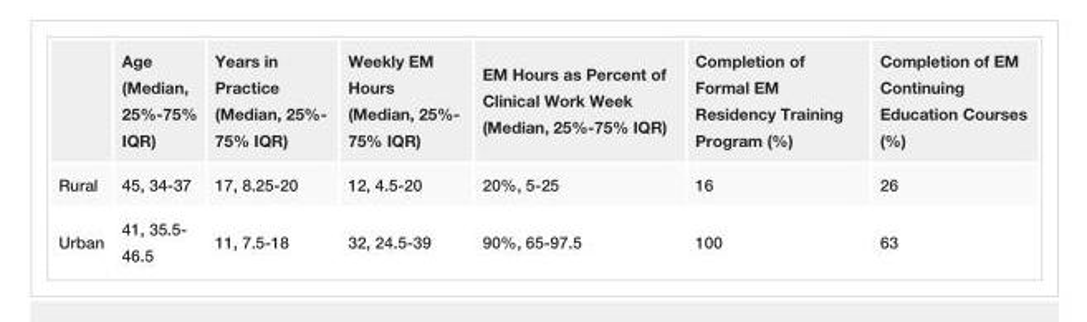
<table><thead><tr><td></td><td>Age (Median, 25%-75% IQR)</td><td>Years in Practice (Median, 25%- 75% IQR)</td><td>Weekly EM Hours (Median, 25%- 75% IQR)</td><td>EM Hours as Percent of Clinical Work Week (Median, 25%-75% IQR)</td><td>Completion of Formal EM Residency Training Program (%)</td><td>Completion of EM Continuing Education Courses (%)</td></tr></thead><tbody><tr><td>Rural</td><td>45, 34-37</td><td>17, 8.25-20</td><td>12, 4.5-20</td><td>20%, 5-25</td><td>16</td><td>26</td></tr><tr><td>Urban</td><td>41, 35.5- 46.5</td><td>11, 7.5-18</td><td>32, 24.5-39</td><td>90%, 65-97.5</td><td>100</td><td>63</td></tr></tbody></table>